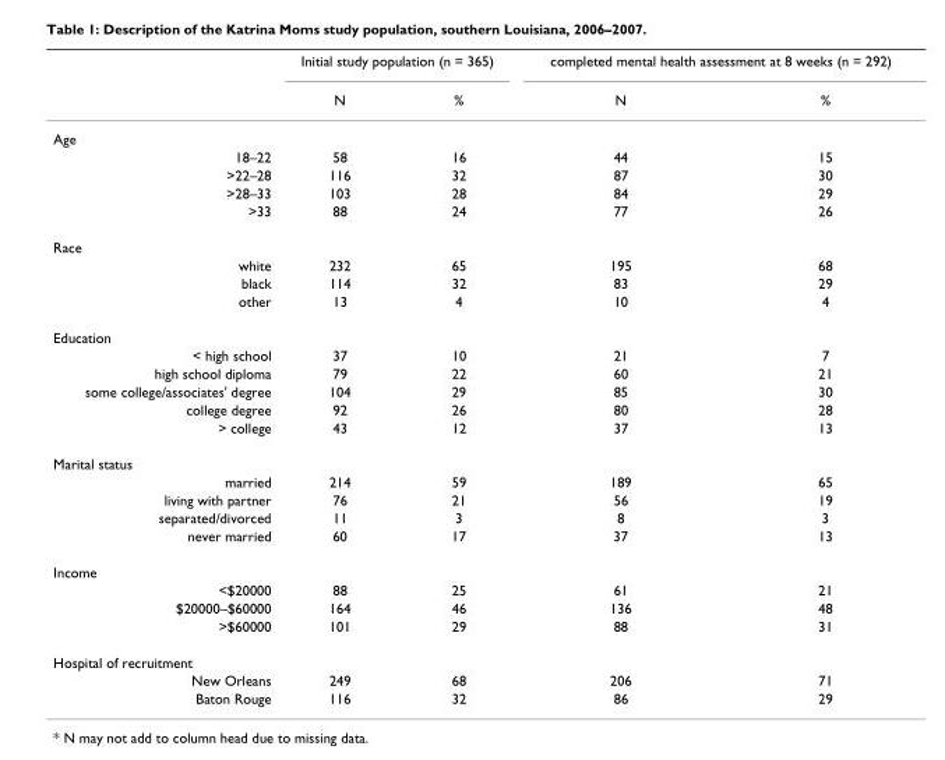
<table><thead><tr><td rowspan="2"></td><td colspan="2">Initial study population (n = 365)</td><td colspan="2">completed mental health assessment at 8 weeks (n = 292)</td></tr><tr><td>N</td><td>%</td><td>N</td><td>%</td></tr></thead><tbody><tr><td colspan="5">Age</td></tr><tr><td>18–22</td><td>58</td><td>16</td><td>44</td><td>15</td></tr><tr><td>&gt;22–28</td><td>116</td><td>32</td><td>87</td><td>30</td></tr><tr><td>&gt;28–33</td><td>103</td><td>28</td><td>84</td><td>29</td></tr><tr><td>&gt;33</td><td>88</td><td>24</td><td>77</td><td>26</td></tr><tr><td colspan="5">Race</td></tr><tr><td>white</td><td>232</td><td>65</td><td>195</td><td>68</td></tr><tr><td>black</td><td>114</td><td>32</td><td>83</td><td>29</td></tr><tr><td>other</td><td>13</td><td>4</td><td>10</td><td>4</td></tr><tr><td colspan="5">Education</td></tr><tr><td>&lt; high school</td><td>37</td><td>10</td><td>21</td><td>7</td></tr><tr><td>high school diploma</td><td>79</td><td>22</td><td>60</td><td>21</td></tr><tr><td>some college/associates&#x27; degree</td><td>104</td><td>29</td><td>85</td><td>30</td></tr><tr><td>college degree</td><td>92</td><td>26</td><td>80</td><td>28</td></tr><tr><td>&gt; college</td><td>43</td><td>12</td><td>37</td><td>13</td></tr><tr><td colspan="5">Marital status</td></tr><tr><td>married</td><td>214</td><td>59</td><td>189</td><td>65</td></tr><tr><td>living with partner</td><td>76</td><td>21</td><td>56</td><td>19</td></tr><tr><td>separated/divorced</td><td>11</td><td>3</td><td>8</td><td>3</td></tr><tr><td>never married</td><td>60</td><td>17</td><td>37</td><td>13</td></tr><tr><td colspan="5">Income</td></tr><tr><td>&lt;$20000</td><td>88</td><td>25</td><td>61</td><td>21</td></tr><tr><td>$20000–$60000</td><td>164</td><td>46</td><td>136</td><td>48</td></tr><tr><td>&gt;$60000</td><td>101</td><td>29</td><td>88</td><td>31</td></tr><tr><td colspan="5">Hospital of recruitment</td></tr><tr><td>New Orleans</td><td>249</td><td>68</td><td>206</td><td>71</td></tr><tr><td>Baton Rouge</td><td>116</td><td>32</td><td>86</td><td>29</td></tr></tbody></table>